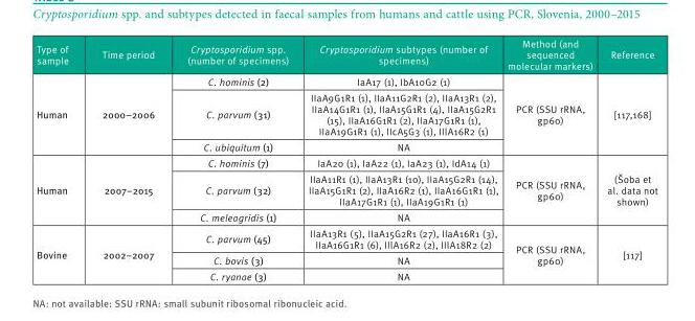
<table><thead><tr><td>Type of sample</td><td>Time period</td><td>Cryptosporidium spp. (number of specimens)</td><td>Cryptosporidium subtypes (number of specimens)</td><td>Method (and sequenced molecular markers)</td><td>Reference</td></tr></thead><tbody><tr><td rowspan="3">Human</td><td rowspan="3">2000–2006</td><td>C. hominis (2)</td><td>IaA17 (1), IbA10G2 (1)</td><td rowspan="3">PCR (SSU rRNA, gp60)</td><td rowspan="3">[117,168]</td></tr><tr><td>C. parvum (31)</td><td>IIaA9G1R1 (1), IIaA11G2R1 (2), IIaA13R1 (2), IIaA14G1R1 (1), IIaA15G1R1 (4), IIaA15G2R1 (15), IIaA16G1R1 (2), IIaA17G1R1 (1), IIaA19G1R1 (1), IIcA5G3 (1), IIlA16R2 (1)</td></tr><tr><td>C. ubiquitum (1)</td><td>NA</td></tr><tr><td rowspan="3">Human</td><td rowspan="3">2007–2015</td><td>C. hominis (7)</td><td>IaA20 (1), IaA22 (1), IaA23 (1), IdA14 (1)</td><td rowspan="3">PCR (SSU rRNA, gp60)</td><td rowspan="3">(Šoba et al. data not shown)</td></tr><tr><td>C. parvum (32)</td><td>IIaA11R1 (1), IIaA13R1 (10), IIaA15G2R1 (14), IIaA15G1R1 (2), IIaA16R2 (1), IIaA16G1R1 (1), IIaA17G1R1 (1), IIaA19G1R1 (1)</td></tr><tr><td>C. meleagridis (1)</td><td>NA</td></tr><tr><td rowspan="3">Bovine</td><td rowspan="3">2002–2007</td><td>C. parvum (45)</td><td>IIaA13R1 (5), IIaA15G2R1 (27), IIaA16R1 (3), IIaA16G1R1 (6), IIlA16R2 (2), IIlA18R2 (2)</td><td rowspan="3">PCR (SSU rRNA, gp60)</td><td rowspan="3">[117]</td></tr><tr><td>C. bovis (3)</td><td>NA</td></tr><tr><td>C. ryanae (3)</td><td>NA</td></tr></tbody></table>